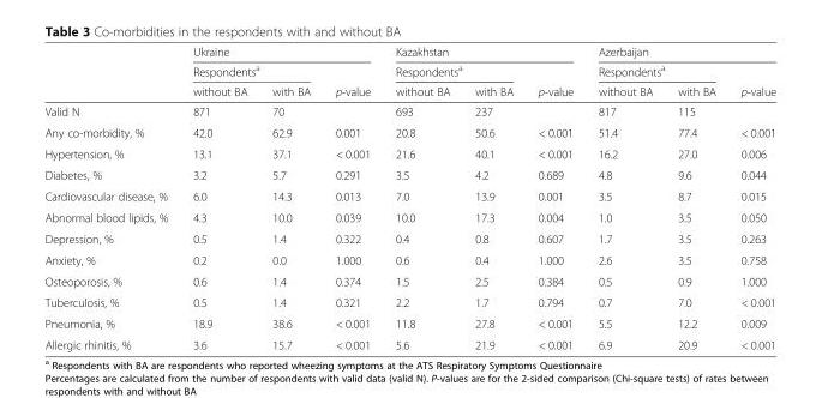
<table><thead><tr><td rowspan="3"></td><td colspan="3">Ukraine</td><td colspan="3">Kazakhstan</td><td colspan="3">Azerbaijan</td></tr><tr><td colspan="2">Respondents<sup>a</sup></td><td rowspan="2">p-value</td><td colspan="2">Respondents<sup>a</sup></td><td rowspan="2">p-value</td><td colspan="2">Respondents<sup>a</sup></td><td rowspan="2">p-value</td></tr><tr><td>without BA</td><td>with BA</td><td>without BA</td><td>with BA</td><td>without BA</td><td>with BA</td></tr></thead><tbody><tr><td>Valid N</td><td>871</td><td>70</td><td></td><td>693</td><td>237</td><td></td><td>817</td><td>115</td><td></td></tr><tr><td>Any co-morbidity, %</td><td>42.0</td><td>62.9</td><td>0.001</td><td>20.8</td><td>50.6</td><td>&lt; 0.001</td><td>51.4</td><td>77.4</td><td>&lt; 0.001</td></tr><tr><td>Hypertension, %</td><td>13.1</td><td>37.1</td><td>&lt; 0.001</td><td>21.6</td><td>40.1</td><td>&lt; 0.001</td><td>16.2</td><td>27.0</td><td>0.006</td></tr><tr><td>Diabetes, %</td><td>3.2</td><td>5.7</td><td>0.291</td><td>3.5</td><td>4.2</td><td>0.689</td><td>4.8</td><td>9.6</td><td>0.044</td></tr><tr><td>Cardiovascular disease, %</td><td>6.0</td><td>14.3</td><td>0.013</td><td>7.0</td><td>13.9</td><td>0.001</td><td>3.5</td><td>8.7</td><td>0.015</td></tr><tr><td>Abnormal blood lipids, %</td><td>4.3</td><td>10.0</td><td>0.039</td><td>10.0</td><td>17.3</td><td>0.004</td><td>1.0</td><td>3.5</td><td>0.050</td></tr><tr><td>Depression, %</td><td>0.5</td><td>1.4</td><td>0.322</td><td>0.4</td><td>0.8</td><td>0.607</td><td>1.7</td><td>3.5</td><td>0.263</td></tr><tr><td>Anxiety, %</td><td>0.2</td><td>0.0</td><td>1.000</td><td>0.6</td><td>0.4</td><td>1.000</td><td>2.6</td><td>3.5</td><td>0.758</td></tr><tr><td>Osteoporosis, %</td><td>0.6</td><td>1.4</td><td>0.374</td><td>1.5</td><td>2.5</td><td>0.384</td><td>0.5</td><td>0.9</td><td>1.000</td></tr><tr><td>Tuberculosis, %</td><td>0.5</td><td>1.4</td><td>0.321</td><td>2.2</td><td>1.7</td><td>0.794</td><td>0.7</td><td>7.0</td><td>&lt; 0.001</td></tr><tr><td>Pneumonia, %</td><td>18.9</td><td>38.6</td><td>&lt; 0.001</td><td>11.8</td><td>27.8</td><td>&lt; 0.001</td><td>5.5</td><td>12.2</td><td>0.009</td></tr><tr><td>Allergic rhinitis, %</td><td>3.6</td><td>15.7</td><td>&lt; 0.001</td><td>5.6</td><td>21.9</td><td>&lt; 0.001</td><td>6.9</td><td>20.9</td><td>&lt; 0.001</td></tr></tbody></table>